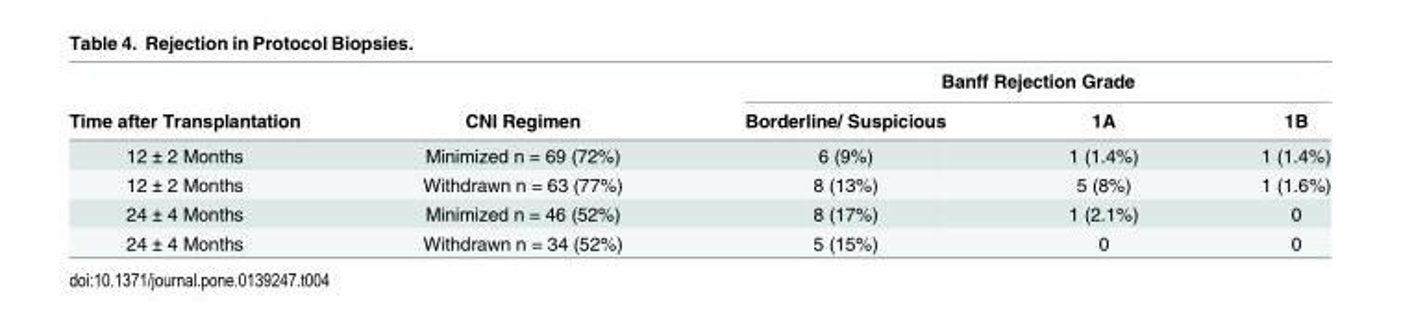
<table><thead><tr><td rowspan="2">Time after Transplantation</td><td rowspan="2">CNI Regimen</td><td colspan="3">Banff Rejection Grade</td></tr><tr><td>Borderline/ Suspicious</td><td>1A</td><td>1B</td></tr></thead><tbody><tr><td>12 ± 2 Months</td><td>Minimized n = 69 (72%)</td><td>6 (9%)</td><td>1 (1.4%)</td><td>1 (1.4%)</td></tr><tr><td>12 ± 2 Months</td><td>Withdrawn n = 63 (77%)</td><td>8 (13%)</td><td>5 (8%)</td><td>1 (1.6%)</td></tr><tr><td>24 ± 4 Months</td><td>Minimized n = 46 (52%)</td><td>8 (17%)</td><td>1 (2.1%)</td><td>0</td></tr><tr><td>24 ± 4 Months</td><td>Withdrawn n = 34 (52%)</td><td>5 (15%)</td><td>0</td><td>0</td></tr></tbody></table>